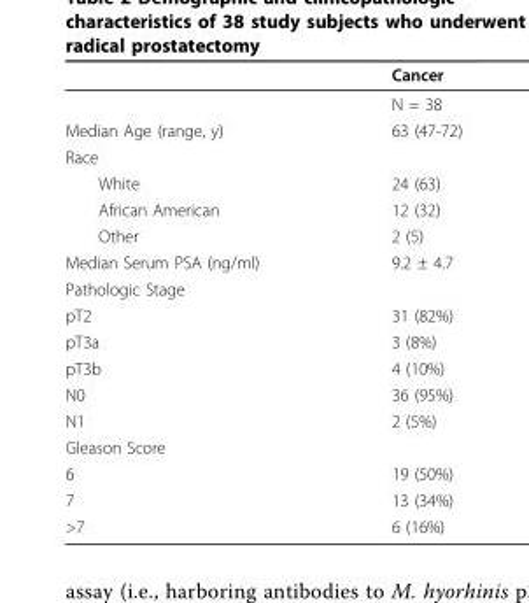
<table><thead><tr><td></td><td>Cancer</td></tr></thead><tbody><tr><td></td><td>N = 38</td></tr><tr><td>Median Age (range, y)</td><td>63 (47-72)</td></tr><tr><td colspan="2">Race</td></tr><tr><td>White</td><td>24 (63)</td></tr><tr><td>African American</td><td>12 (32)</td></tr><tr><td>Other</td><td>2 (5)</td></tr><tr><td>Median Serum PSA (ng/ml)</td><td>9.2 ± 4.7</td></tr><tr><td colspan="2">Pathologic Stage</td></tr><tr><td>pT2</td><td>31 (82%)</td></tr><tr><td>pT3a</td><td>3 (8%)</td></tr><tr><td>pT3b</td><td>4 (10%)</td></tr><tr><td>N0</td><td>36 (95%)</td></tr><tr><td>N1</td><td>2 (5%)</td></tr><tr><td colspan="2">Gleason Score</td></tr><tr><td>6</td><td>19 (50%)</td></tr><tr><td>7</td><td>13 (34%)</td></tr><tr><td>&gt;7</td><td>6 (16%)</td></tr></tbody></table>